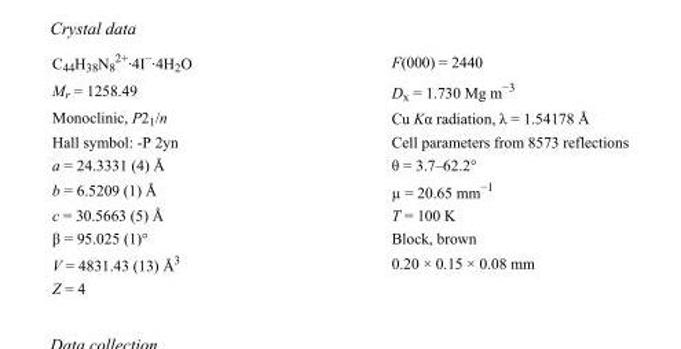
<table><tbody><tr><td>C<sub>44</sub>H<sub>38</sub>N<sub>8</sub> <sup>2+</sup>·4I<sup>−</sup>·4H<sub>2</sub>O</td><td>F(000) = 2440</td></tr><tr><td>M<sub>r</sub> = 1258.49</td><td>D<sub>x</sub> = 1.730 Mg m<sup>−3</sup></td></tr><tr><td>Monoclinic, P2<sub>1</sub>/n</td><td>Cu Kα radiation, λ = 1.54178 Å</td></tr><tr><td>Hall symbol: -P 2yn</td><td>Cell parameters from 8573 reflections</td></tr><tr><td>a = 24.3331 (4) Å</td><td>θ = 3.7–62.2°</td></tr><tr><td>b = 6.5209 (1) Å</td><td>µ = 20.65 mm<sup>−1</sup></td></tr><tr><td>c = 30.5663 (5) Å</td><td>T = 100 K</td></tr><tr><td>β = 95.025 (1)°</td><td>Block, brown</td></tr><tr><td>V = 4831.43 (13) Å<sup>3</sup></td><td>0.20 × 0.15 × 0.08 mm</td></tr><tr><td>Z = 4</td><td></td></tr></tbody></table>